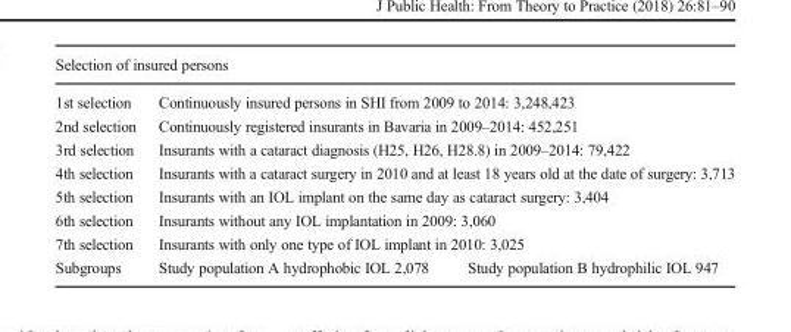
<table><thead><tr><td colspan="3">Selection of insured persons</td></tr></thead><tbody><tr><td>1st selection</td><td colspan="2">Continuously insured persons in SHI from 2009 to 2014: 3,248,423</td></tr><tr><td>2nd selection</td><td colspan="2">Continuously registered insurants in Bavaria in 2009–2014: 452,251</td></tr><tr><td>3rd selection</td><td colspan="2">Insurants with a cataract diagnosis (H25, H26, H28.8) in 2009–2014: 79,422</td></tr><tr><td>4th selection</td><td colspan="2">Insurants with a cataract surgery in 2010 and at least 18 years old at the date of surgery: 3,713</td></tr><tr><td>5th selection</td><td colspan="2">Insurants with an IOL implant on the same day as cataract surgery: 3,404</td></tr><tr><td>6th selection</td><td colspan="2">Insurants without any IOL implantation in 2009: 3,060</td></tr><tr><td>7th selection</td><td colspan="2">Insurants with only one type of IOL implant in 2010: 3,025</td></tr><tr><td>Subgroups</td><td>Study population A hydrophobic IOL 2,078</td><td>Study population B hydrophilic IOL 947</td></tr></tbody></table>